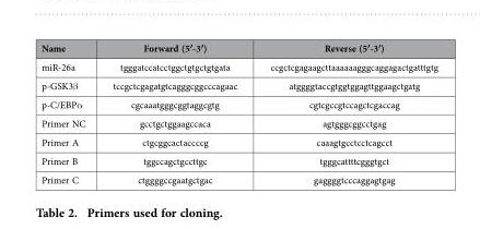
<table><thead><tr><td>Name</td><td>Forward (5′-3′)</td><td>Reverse (5′-3′)</td></tr></thead><tbody><tr><td>miR-26a</td><td>tgggatccatcctggctgtgctgtgata</td><td>ccgctcgagaagcttaaaaaagggcaggagactgatttgtg</td></tr><tr><td>p-GSK3β</td><td>tccgctcgagatgtcagggcggcccagaac</td><td>atggggtaccgtggtggagttggaagctgatg</td></tr><tr><td>p-C/EBPα</td><td>cgcaaatgggcggtaggcgtg</td><td>cgtcgccgtccagctcgaccag</td></tr><tr><td>Primer NC</td><td>gcctgctggaagccaca</td><td>agtgggcggcctgag</td></tr><tr><td>Primer A</td><td>ctgcggcactaccccg</td><td>caaagtgcctcctcagcct</td></tr><tr><td>Primer B</td><td>tggccagctgccttgc</td><td>tgggcattttcgggtgct</td></tr><tr><td>Primer C</td><td>ctggggccgaatgctgac</td><td>gaggggtcccaggagtgag</td></tr></tbody></table>